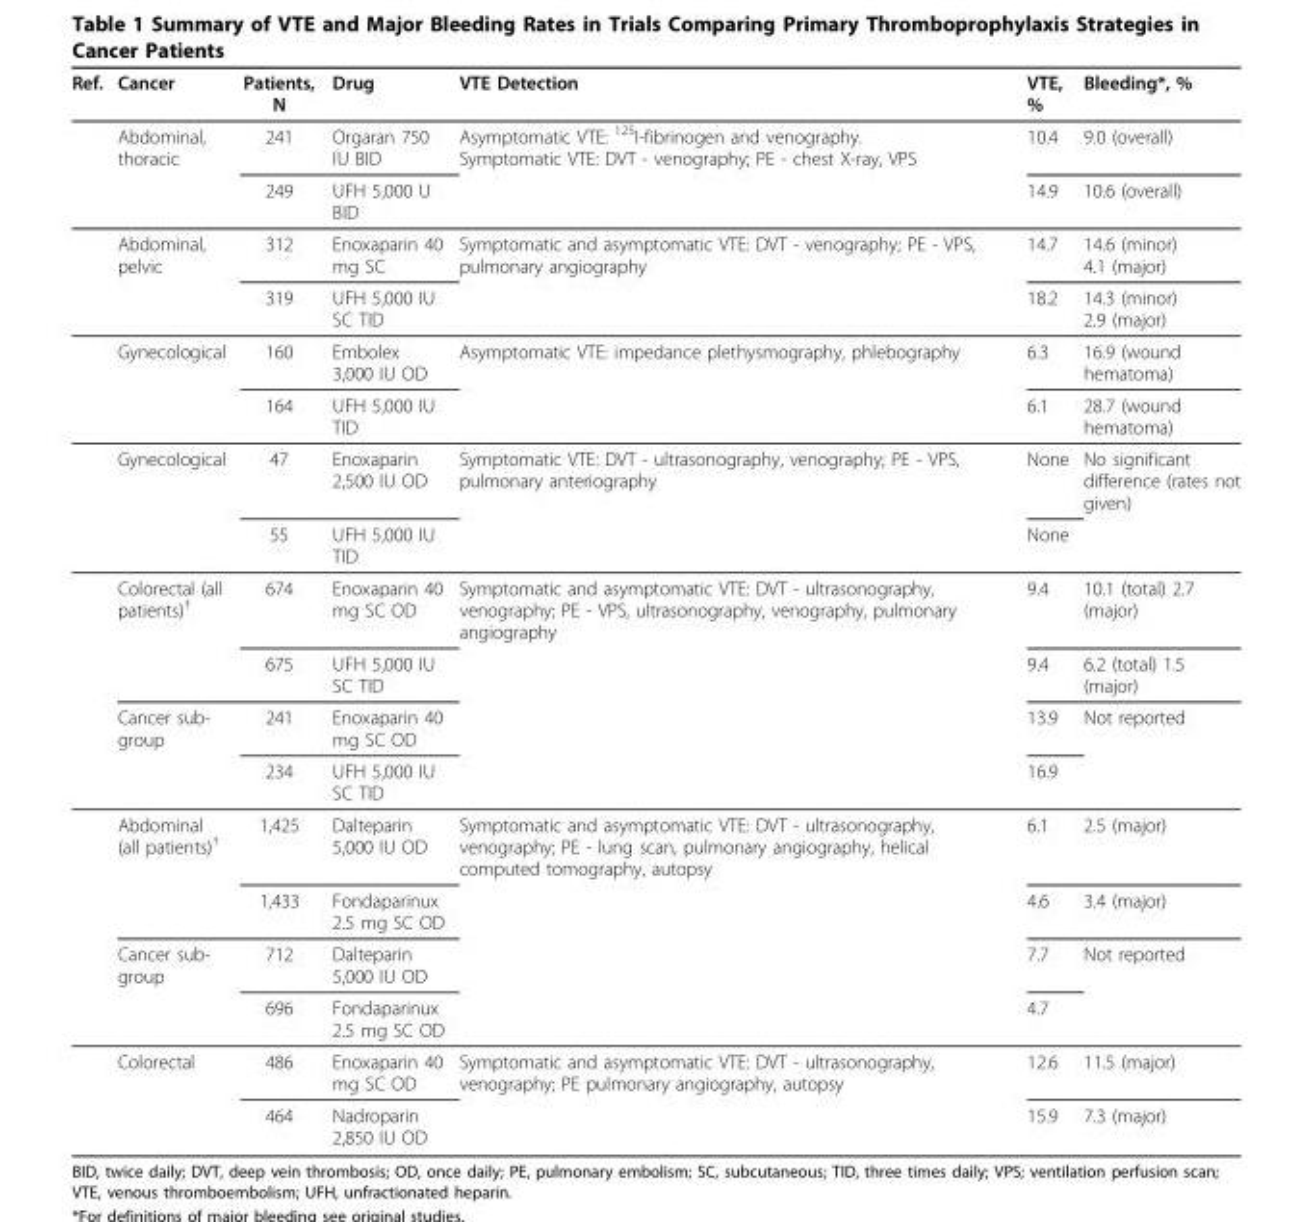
<table><thead><tr><td>Ref.</td><td>Cancer</td><td>Patients, N</td><td>Drug</td><td>VTE Detection</td><td>VTE, %</td><td>Bleeding*, %</td></tr></thead><tbody><tr><td rowspan="2"></td><td>Abdominal, thoracic</td><td>241</td><td>Orgaran 750 IU BID</td><td>Asymptomatic VTE: <sup>125</sup>I-fibrinogen and venography. Symptomatic VTE: DVT - venography; PE - chest X-ray, VPS</td><td>10.4</td><td>9.0 (overall)</td></tr><tr><td></td><td>249</td><td>UFH 5,000 U BID</td><td></td><td>14.9</td><td>10.6 (overall)</td></tr><tr><td rowspan="2"></td><td>Abdominal, pelvic</td><td>312</td><td>Enoxaparin 40 mg SC</td><td>Symptomatic and asymptomatic VTE: DVT - venography; PE - VPS, pulmonary angiography</td><td>14.7</td><td>14.6 (minor) 4.1 (major)</td></tr><tr><td></td><td>319</td><td>UFH 5,000 IU SC TID</td><td></td><td>18.2</td><td>14.3 (minor) 2.9 (major)</td></tr><tr><td rowspan="2"></td><td>Gynecological</td><td>160</td><td>Embolex 3,000 IU OD</td><td>Asymptomatic VTE: impedance plethysmography, phlebography</td><td>6.3</td><td>16.9 (wound hematoma)</td></tr><tr><td></td><td>164</td><td>UFH 5,000 IU TID</td><td></td><td>6.1</td><td>28.7 (wound hematoma)</td></tr><tr><td rowspan="2"></td><td>Gynecological</td><td>47</td><td>Enoxaparin 2,500 IU OD</td><td>Symptomatic VTE: DVT - ultrasonography, venography; PE - VPS, pulmonary anteriography</td><td>None</td><td>No significant difference (rates not given)</td></tr><tr><td></td><td>55</td><td>UFH 5,000 IU TID</td><td></td><td>None</td><td></td></tr><tr><td rowspan="4"></td><td>Colorectal (all patients)<sup>†</sup></td><td>674</td><td>Enoxaparin 40 mg SC OD</td><td>Symptomatic and asymptomatic VTE: DVT - ultrasonography, venography; PE - VPS, ultrasonography, venography, pulmonary angiography</td><td>9.4</td><td>10.1 (total) 2.7 (major)</td></tr><tr><td></td><td>675</td><td>UFH 5,000 IU SC TID</td><td></td><td>9.4</td><td>6.2 (total) 1.5 (major)</td></tr><tr><td>Cancer sub- group</td><td>241</td><td>Enoxaparin 40 mg SC OD</td><td></td><td>13.9</td><td>Not reported</td></tr><tr><td></td><td>234</td><td>UFH 5,000 IU SC TID</td><td></td><td>16.9</td><td></td></tr><tr><td rowspan="4"></td><td>Abdominal (all patients)<sup>†</sup></td><td>1,425</td><td>Dalteparin 5,000 IU OD</td><td>Symptomatic and asymptomatic VTE: DVT - ultrasonography, venography; PE - lung scan, pulmonary angiography, helical computed tomography, autopsy</td><td>6.1</td><td>2.5 (major)</td></tr><tr><td></td><td>1,433</td><td>Fondaparinux 2.5 mg SC OD</td><td></td><td>4.6</td><td>3.4 (major)</td></tr><tr><td>Cancer sub- group</td><td>712</td><td>Dalteparin 5,000 IU OD</td><td></td><td>7.7</td><td>Not reported</td></tr><tr><td></td><td>696</td><td>Fondaparinux 2.5 mg SC OD</td><td></td><td>4.7</td><td></td></tr><tr><td rowspan="2"></td><td>Colorectal</td><td>486</td><td>Enoxaparin 40 mg SC OD</td><td>Symptomatic and asymptomatic VTE: DVT - ultrasonography, venography; PE pulmonary angiography, autopsy</td><td>12.6</td><td>11.5 (major)</td></tr><tr><td></td><td>464</td><td>Nadroparin 2,850 IU OD</td><td></td><td>15.9</td><td>7.3 (major)</td></tr></tbody></table>